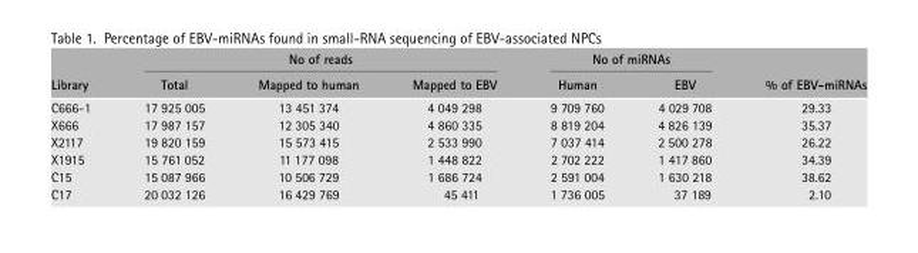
<table><thead><tr><td rowspan="2">Library</td><td colspan="3">No of reads</td><td colspan="2">No of miRNAs</td><td rowspan="2">% of EBV-miRNAs</td></tr><tr><td>Total</td><td>Mapped to human</td><td>Mapped to EBV</td><td>Human</td><td>EBV</td></tr></thead><tbody><tr><td>C666-1</td><td>17 925 005</td><td>13 451 374</td><td>4 049 298</td><td>9 709 760</td><td>4 029 708</td><td>29.33</td></tr><tr><td>X666</td><td>17 987 157</td><td>12 305 340</td><td>4 860 335</td><td>8 819 204</td><td>4 826 139</td><td>35.37</td></tr><tr><td>X2117</td><td>19 820 159</td><td>15 573 415</td><td>2 533 990</td><td>7 037 414</td><td>2 500 278</td><td>26.22</td></tr><tr><td>X1915</td><td>15 761 052</td><td>11 177 098</td><td>1 448 822</td><td>2 702 222</td><td>1 417 860</td><td>34.39</td></tr><tr><td>C15</td><td>15 087 966</td><td>10 506 729</td><td>1 686 724</td><td>2 591 004</td><td>1 630 218</td><td>38.62</td></tr><tr><td>C17</td><td>20 032 126</td><td>16 429 769</td><td>45 411</td><td>1 736 005</td><td>37 189</td><td>2.10</td></tr></tbody></table>